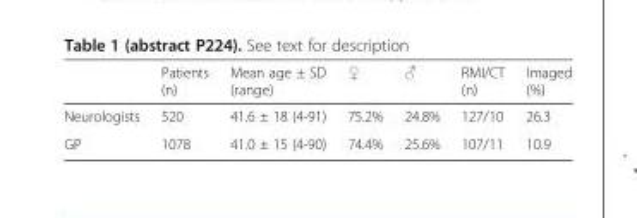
<table><thead><tr><td></td><td>Patients (n)</td><td>Mean age ± SD (range)</td><td>♀</td><td>♂</td><td>RMI/CT (n)</td><td>Imaged (%)</td></tr></thead><tbody><tr><td>Neurologists</td><td>520</td><td>41.6 ± 18 (4-91)</td><td>75.2%</td><td>24.8%</td><td>127/10</td><td>26.3</td></tr><tr><td>GP</td><td>1078</td><td>41.0 ± 15 (4-90)</td><td>74.4%</td><td>25.6%</td><td>107/11</td><td>10.9</td></tr></tbody></table>